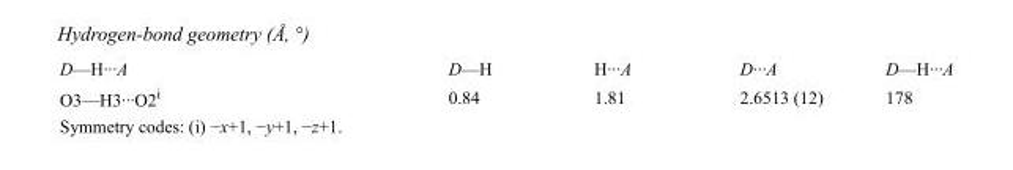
<table><tbody><tr><td>D—H···A</td><td>D—H</td><td>H···A</td><td>D···A</td><td>D—H···A</td></tr><tr><td>O3—H3···O2<sup>i</sup></td><td>0.84</td><td>1.81</td><td>2.6513 (12)</td><td>178</td></tr></tbody></table>